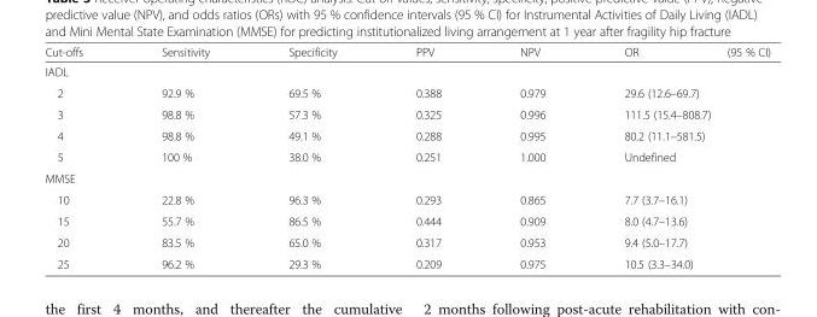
<table><thead><tr><td>Cut-offs</td><td>Sensitivity</td><td>Specificity</td><td>PPV</td><td>NPV</td><td>OR</td><td>(95 % CI)</td></tr></thead><tbody><tr><td colspan="7">IADL</td></tr><tr><td>2</td><td>92.9 %</td><td>69.5 %</td><td>0.388</td><td>0.979</td><td colspan="2">29.6 (12.6–69.7)</td></tr><tr><td>3</td><td>98.8 %</td><td>57.3 %</td><td>0.325</td><td>0.996</td><td colspan="2">111.5 (15.4–808.7)</td></tr><tr><td>4</td><td>98.8 %</td><td>49.1 %</td><td>0.288</td><td>0.995</td><td colspan="2">80.2 (11.1–581.5)</td></tr><tr><td>5</td><td>100 %</td><td>38.0 %</td><td>0.251</td><td>1.000</td><td colspan="2">Undefined</td></tr><tr><td colspan="7">MMSE</td></tr><tr><td>10</td><td>22.8 %</td><td>96.3 %</td><td>0.293</td><td>0.865</td><td colspan="2">7.7 (3.7–16.1)</td></tr><tr><td>15</td><td>55.7 %</td><td>86.5 %</td><td>0.444</td><td>0.909</td><td colspan="2">8.0 (4.7–13.6)</td></tr><tr><td>20</td><td>83.5 %</td><td>65.0 %</td><td>0.317</td><td>0.953</td><td colspan="2">9.4 (5.0–17.7)</td></tr><tr><td>25</td><td>96.2 %</td><td>29.3 %</td><td>0.209</td><td>0.975</td><td colspan="2">10.5 (3.3–34.0)</td></tr></tbody></table>